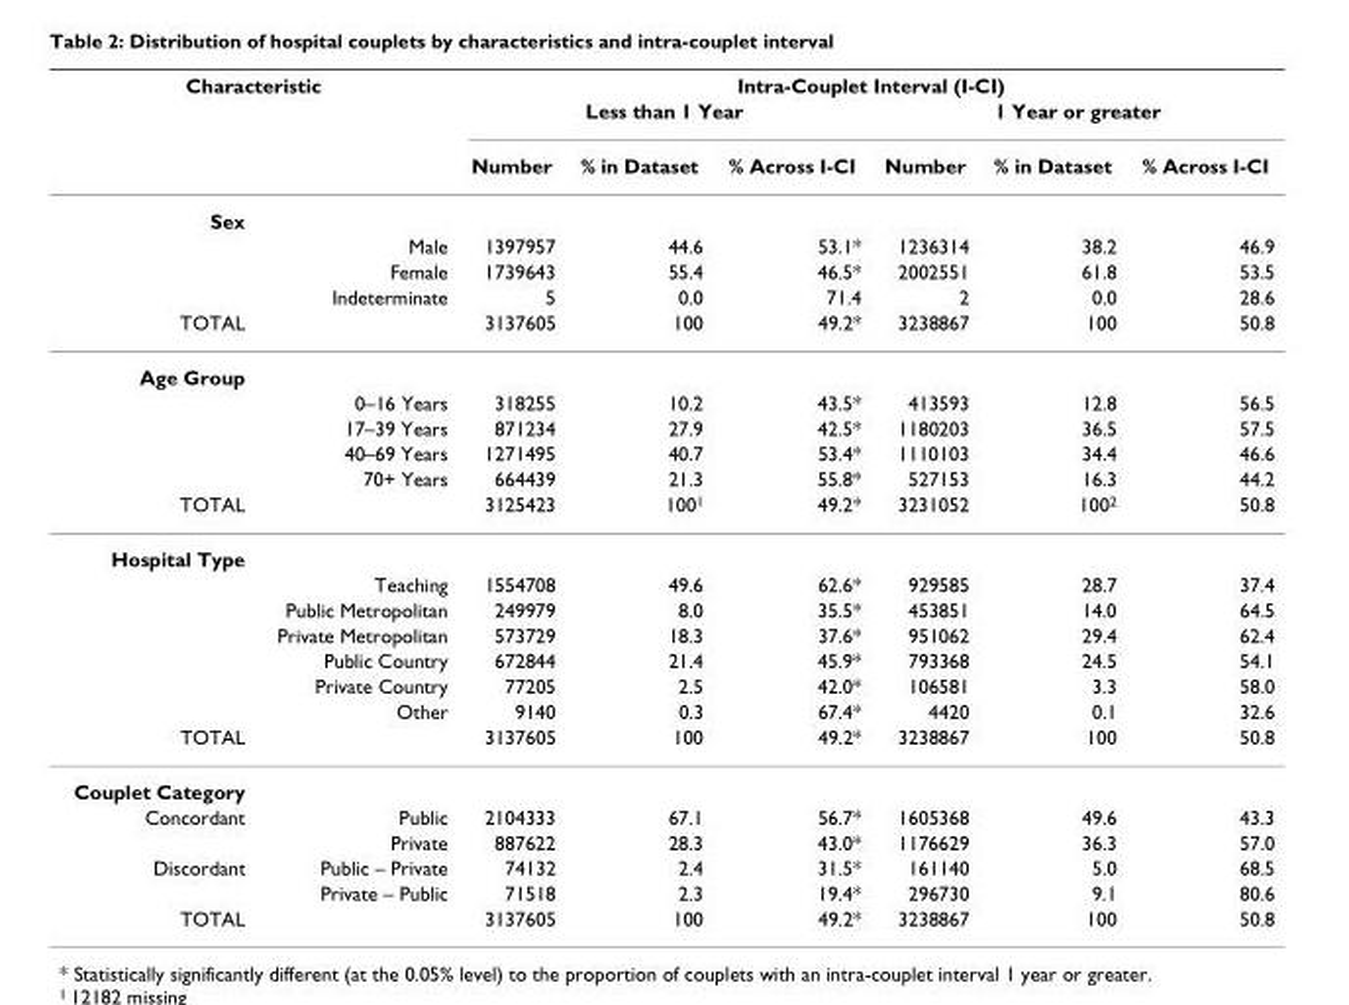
<table><thead><tr><td colspan="2">Characteristic</td><td colspan="6">Intra-Couplet Interval (I-CI)</td></tr><tr><td rowspan="2"></td><td rowspan="2"></td><td colspan="3">Less than 1 Year</td><td colspan="3">1 Year or greater</td></tr><tr><td>Number</td><td>% in Dataset</td><td>% Across I-CI</td><td>Number</td><td>% in Dataset</td><td>% Across I-CI</td></tr></thead><tbody><tr><td colspan="8">Sex</td></tr><tr><td></td><td>Male</td><td>1397957</td><td>44.6</td><td>53.1*</td><td>1236314</td><td>38.2</td><td>46.9</td></tr><tr><td></td><td>Female</td><td>1739643</td><td>55.4</td><td>46.5*</td><td>2002551</td><td>61.8</td><td>53.5</td></tr><tr><td></td><td>Indeterminate</td><td>5</td><td>0.0</td><td>71.4</td><td>2</td><td>0.0</td><td>28.6</td></tr><tr><td>TOTAL</td><td></td><td>3137605</td><td>100</td><td>49.2*</td><td>3238867</td><td>100</td><td>50.8</td></tr><tr><td colspan="8">Age Group</td></tr><tr><td></td><td>0–16 Years</td><td>318255</td><td>10.2</td><td>43.5*</td><td>413593</td><td>12.8</td><td>56.5</td></tr><tr><td></td><td>17–39 Years</td><td>871234</td><td>27.9</td><td>42.5*</td><td>1180203</td><td>36.5</td><td>57.5</td></tr><tr><td></td><td>40–69 Years</td><td>1271495</td><td>40.7</td><td>53.4*</td><td>1110103</td><td>34.4</td><td>46.6</td></tr><tr><td></td><td>70+ Years</td><td>664439</td><td>21.3</td><td>55.8*</td><td>527153</td><td>16.3</td><td>44.2</td></tr><tr><td>TOTAL</td><td></td><td>3125423</td><td>100<sup>1</sup></td><td>49.2*</td><td>3231052</td><td>100<sup>2</sup></td><td>50.8</td></tr><tr><td colspan="8">Hospital Type</td></tr><tr><td></td><td>Teaching</td><td>1554708</td><td>49.6</td><td>62.6*</td><td>929585</td><td>28.7</td><td>37.4</td></tr><tr><td></td><td>Public Metropolitan</td><td>249979</td><td>8.0</td><td>35.5*</td><td>453851</td><td>14.0</td><td>64.5</td></tr><tr><td></td><td>Private Metropolitan</td><td>573729</td><td>18.3</td><td>37.6*</td><td>951062</td><td>29.4</td><td>62.4</td></tr><tr><td></td><td>Public Country</td><td>672844</td><td>21.4</td><td>45.9*</td><td>793368</td><td>24.5</td><td>54.1</td></tr><tr><td></td><td>Private Country</td><td>77205</td><td>2.5</td><td>42.0*</td><td>106581</td><td>3.3</td><td>58.0</td></tr><tr><td></td><td>Other</td><td>9140</td><td>0.3</td><td>67.4*</td><td>4420</td><td>0.1</td><td>32.6</td></tr><tr><td>TOTAL</td><td></td><td>3137605</td><td>100</td><td>49.2*</td><td>3238867</td><td>100</td><td>50.8</td></tr><tr><td colspan="8">Couplet Category</td></tr><tr><td rowspan="2">Concordant</td><td>Public</td><td>2104333</td><td>67.1</td><td>56.7*</td><td>1605368</td><td>49.6</td><td>43.3</td></tr><tr><td>Private</td><td>887622</td><td>28.3</td><td>43.0*</td><td>1176629</td><td>36.3</td><td>57.0</td></tr><tr><td rowspan="2">Discordant</td><td>Public – Private</td><td>74132</td><td>2.4</td><td>31.5*</td><td>161140</td><td>5.0</td><td>68.5</td></tr><tr><td>Private – Public</td><td>71518</td><td>2.3</td><td>19.4*</td><td>296730</td><td>9.1</td><td>80.6</td></tr><tr><td>TOTAL</td><td></td><td>3137605</td><td>100</td><td>49.2*</td><td>3238867</td><td>100</td><td>50.8</td></tr></tbody></table>